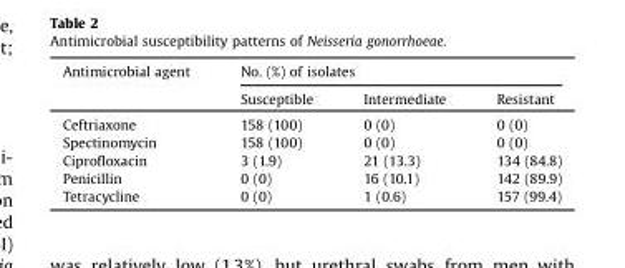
<table><thead><tr><td rowspan="2">Antimicrobial agent</td><td colspan="3">No. (%) of isolates</td></tr><tr><td>Susceptible</td><td>Intermediate</td><td>Resistant</td></tr></thead><tbody><tr><td>Ceftriaxone</td><td>158 (100)</td><td>0 (0)</td><td>0 (0)</td></tr><tr><td>Spectinomycin</td><td>158 (100)</td><td>0 (0)</td><td>0 (0)</td></tr><tr><td>Ciprofloxacin</td><td>3 (1.9)</td><td>21 (13.3)</td><td>134 (84.8)</td></tr><tr><td>Penicillin</td><td>0 (0)</td><td>16 (10.1)</td><td>142 (89.9)</td></tr><tr><td>Tetracycline</td><td>0 (0)</td><td>1 (0.6)</td><td>157 (99.4)</td></tr></tbody></table>